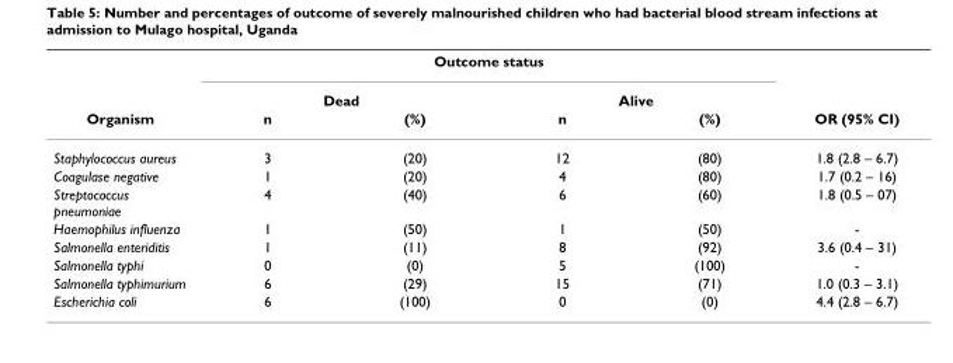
<table><thead><tr><td rowspan="3">Organism</td><td colspan="4">Outcome status</td><td rowspan="3">OR (95% CI)</td></tr><tr><td colspan="2">Dead</td><td colspan="2">Alive</td></tr><tr><td>n</td><td>(%)</td><td>n</td><td>(%)</td></tr></thead><tbody><tr><td>Staphylococcus aureus</td><td>3</td><td>(20)</td><td>12</td><td>(80)</td><td>1.8 (2.8 – 6.7)</td></tr><tr><td>Coagulase negative</td><td>1</td><td>(20)</td><td>4</td><td>(80)</td><td>1.7 (0.2 – 16)</td></tr><tr><td>Streptococcus pneumoniae</td><td>4</td><td>(40)</td><td>6</td><td>(60)</td><td>1.8 (0.5 – 07)</td></tr><tr><td>Haemophilus influenza</td><td>1</td><td>(50)</td><td>1</td><td>(50)</td><td>-</td></tr><tr><td>Salmonella enteriditis</td><td>1</td><td>(11)</td><td>8</td><td>(92)</td><td>3.6 (0.4 – 31)</td></tr><tr><td>Salmonella typhi</td><td>0</td><td>(0)</td><td>5</td><td>(100)</td><td>-</td></tr><tr><td>Salmonella typhimurium</td><td>6</td><td>(29)</td><td>15</td><td>(71)</td><td>1.0 (0.3 – 3.1)</td></tr><tr><td>Escherichia coli</td><td>6</td><td>(100)</td><td>0</td><td>(0)</td><td>4.4 (2.8 – 6.7)</td></tr></tbody></table>